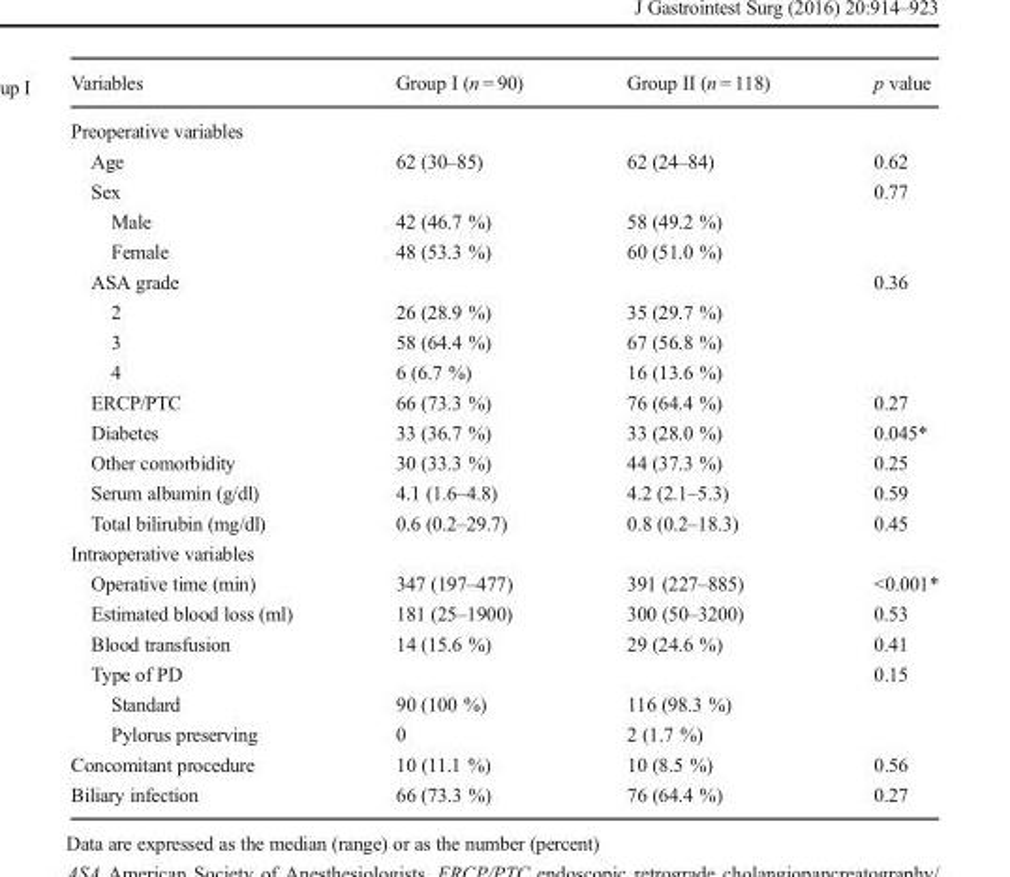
<table><thead><tr><td>Variables</td><td>Group I (n = 90)</td><td>Group II (n = 118)</td><td>p value</td></tr></thead><tbody><tr><td colspan="4">Preoperative variables</td></tr><tr><td>Age</td><td>62 (30–85)</td><td>62 (24–84)</td><td>0.62</td></tr><tr><td>Sex</td><td></td><td></td><td>0.77</td></tr><tr><td>Male</td><td>42 (46.7 %)</td><td>58 (49.2 %)</td><td></td></tr><tr><td>Female</td><td>48 (53.3 %)</td><td>60 (51.0 %)</td><td></td></tr><tr><td>ASA grade</td><td></td><td></td><td>0.36</td></tr><tr><td>2</td><td>26 (28.9 %)</td><td>35 (29.7 %)</td><td></td></tr><tr><td>3</td><td>58 (64.4 %)</td><td>67 (56.8 %)</td><td></td></tr><tr><td>4</td><td>6 (6.7 %)</td><td>16 (13.6 %)</td><td></td></tr><tr><td>ERCP/PTC</td><td>66 (73.3 %)</td><td>76 (64.4 %)</td><td>0.27</td></tr><tr><td>Diabetes</td><td>33 (36.7 %)</td><td>33 (28.0 %)</td><td>0.045*</td></tr><tr><td>Other comorbidity</td><td>30 (33.3 %)</td><td>44 (37.3 %)</td><td>0.25</td></tr><tr><td>Serum albumin (g/dl)</td><td>4.1 (1.6–4.8)</td><td>4.2 (2.1–5.3)</td><td>0.59</td></tr><tr><td>Total bilirubin (mg/dl)</td><td>0.6 (0.2–29.7)</td><td>0.8 (0.2–18.3)</td><td>0.45</td></tr><tr><td colspan="4">Intraoperative variables</td></tr><tr><td>Operative time (min)</td><td>347 (197–477)</td><td>391 (227–885)</td><td>&lt;0.001*</td></tr><tr><td>Estimated blood loss (ml)</td><td>181 (25–1900)</td><td>300 (50–3200)</td><td>0.53</td></tr><tr><td>Blood transfusion</td><td>14 (15.6 %)</td><td>29 (24.6 %)</td><td>0.41</td></tr><tr><td>Type of PD</td><td></td><td></td><td>0.15</td></tr><tr><td>Standard</td><td>90 (100 %)</td><td>116 (98.3 %)</td><td></td></tr><tr><td>Pylorus preserving</td><td>0</td><td>2 (1.7 %)</td><td></td></tr><tr><td>Concomitant procedure</td><td>10 (11.1 %)</td><td>10 (8.5 %)</td><td>0.56</td></tr><tr><td>Biliary infection</td><td>66 (73.3 %)</td><td>76 (64.4 %)</td><td>0.27</td></tr></tbody></table>